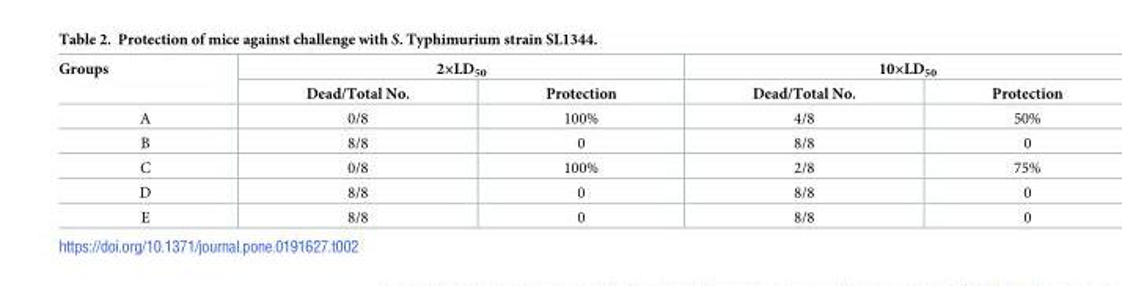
<table><thead><tr><td rowspan="2">Groups</td><td colspan="2">2×LD<sub>50</sub></td><td colspan="2">10×LD<sub>50</sub></td></tr><tr><td>Dead/Total No.</td><td>Protection</td><td>Dead/Total No.</td><td>Protection</td></tr></thead><tbody><tr><td>A</td><td>0/8</td><td>100%</td><td>4/8</td><td>50%</td></tr><tr><td>B</td><td>8/8</td><td>0</td><td>8/8</td><td>0</td></tr><tr><td>C</td><td>0/8</td><td>100%</td><td>2/8</td><td>75%</td></tr><tr><td>D</td><td>8/8</td><td>0</td><td>8/8</td><td>0</td></tr><tr><td>E</td><td>8/8</td><td>0</td><td>8/8</td><td>0</td></tr></tbody></table>